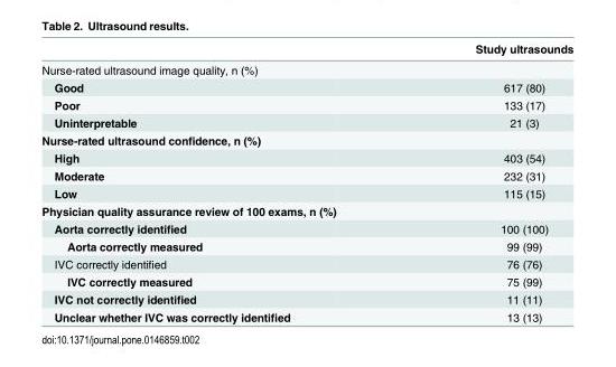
<table><thead><tr><td></td><td>Study ultrasounds</td></tr></thead><tbody><tr><td colspan="2">Nurse-rated ultrasound image quality, n (%)</td></tr><tr><td>Good</td><td>617 (80)</td></tr><tr><td>Poor</td><td>133 (17)</td></tr><tr><td>Uninterpretable</td><td>21 (3)</td></tr><tr><td colspan="2">Nurse-rated ultrasound confidence, n (%)</td></tr><tr><td>High</td><td>403 (54)</td></tr><tr><td>Moderate</td><td>232 (31)</td></tr><tr><td>Low</td><td>115 (15)</td></tr><tr><td colspan="2">Physician quality assurance review of 100 exams, n (%)</td></tr><tr><td>Aorta correctly identified</td><td>100 (100)</td></tr><tr><td>Aorta correctly measured</td><td>99 (99)</td></tr><tr><td>IVC correctly identified</td><td>76 (76)</td></tr><tr><td>IVC correctly measured</td><td>75 (99)</td></tr><tr><td>IVC not correctly identified</td><td>11 (11)</td></tr><tr><td>Unclear whether IVC was correctly identified</td><td>13 (13)</td></tr></tbody></table>